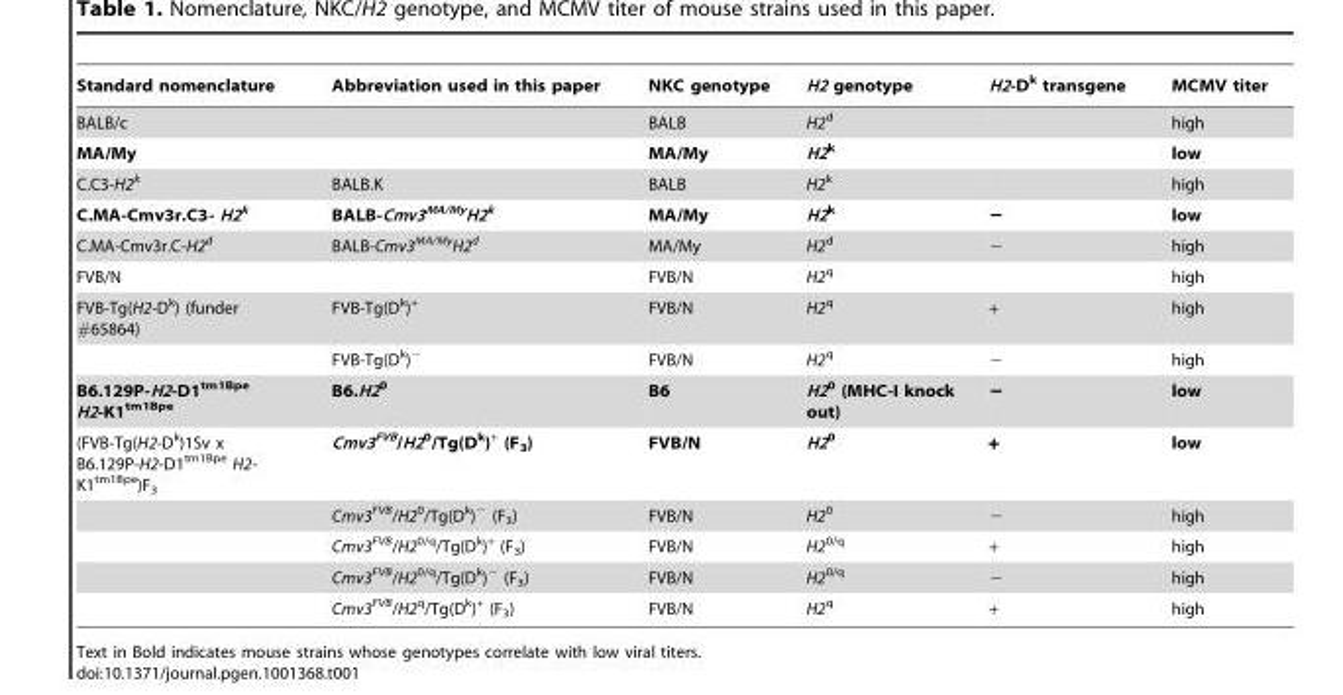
<table><thead><tr><td>Standard nomenclature</td><td>Abbreviation used in this paper</td><td>NKC genotype</td><td>H2 genotype</td><td>H2-D<sup>k</sup> transgene</td><td>MCMV titer</td></tr></thead><tbody><tr><td>BALB/c</td><td></td><td>BALB</td><td>H2<sup>d</sup></td><td></td><td>high</td></tr><tr><td>MA/My</td><td></td><td>MA/My</td><td>H2<sup>k</sup></td><td></td><td>low</td></tr><tr><td>C.C3-H2<sup>k</sup></td><td>BALB.K</td><td>BALB</td><td>H2<sup>k</sup></td><td></td><td>high</td></tr><tr><td>C.MA-Cmv3r.C3- H2<sup>k</sup></td><td>BALB-Cmv3<sup>MA/My</sup>H2<sup>k</sup></td><td>MA/My</td><td>H2<sup>k</sup></td><td>−</td><td>low</td></tr><tr><td>C.MA-Cmv3r.C-H2<sup>d</sup></td><td>BALB-Cmv3<sup>MA/My</sup>H2<sup>d</sup></td><td>MA/My</td><td>H2<sup>d</sup></td><td>−</td><td>high</td></tr><tr><td>FVB/N</td><td></td><td>FVB/N</td><td>H2<sup>q</sup></td><td></td><td>high</td></tr><tr><td rowspan="2">FVB-Tg(H2-D<sup>k</sup>) (funder #65864)</td><td>FVB-Tg(D<sup>k</sup>)<sup>+</sup></td><td>FVB/N</td><td>H2<sup>q</sup></td><td>+</td><td>high</td></tr><tr><td>FVB-Tg(D<sup>k</sup>)<sup>−</sup></td><td>FVB/N</td><td>H2<sup>q</sup></td><td>−</td><td>high</td></tr><tr><td>B6.129P-H2-D1<sup>tm1Bpe</sup> H2-K1<sup>tm1Bpe</sup></td><td>B6.H2<sup>0</sup></td><td>B6</td><td>H2<sup>0</sup> (MHC-I knock out)</td><td>−</td><td>low</td></tr><tr><td rowspan="5">(FVB-Tg(H2-D<sup>k</sup>)1Sv x B6.129P-H2-D1<sup>tm1Bpe</sup> H2- K1<sup>tm1Bpe</sup>)F<sub>3</sub></td><td>Cmv3<sup>FVB</sup>/H2<sup>0</sup>/Tg(D<sup>k</sup>)<sup>+</sup> (F<sub>3</sub>)</td><td>FVB/N</td><td>H2<sup>0</sup></td><td>+</td><td>low</td></tr><tr><td>Cmv3<sup>FVB</sup>/H2<sup>0</sup>/Tg(D<sup>k</sup>)<sup>−</sup> (F<sub>3</sub>)</td><td>FVB/N</td><td>H2<sup>0</sup></td><td>−</td><td>high</td></tr><tr><td>Cmv3<sup>FVB</sup>/H2<sup>0/q</sup>/Tg(D<sup>k</sup>)<sup>+</sup> (F<sub>3</sub>)</td><td>FVB/N</td><td>H2<sup>0/q</sup></td><td>+</td><td>high</td></tr><tr><td>Cmv3<sup>FVB</sup>/H2<sup>0/q</sup>/Tg(D<sup>k</sup>)<sup>−</sup> (F<sub>3</sub>)</td><td>FVB/N</td><td>H2<sup>0/q</sup></td><td>−</td><td>high</td></tr><tr><td>Cmv3<sup>FVB</sup>/H2<sup>q</sup>/Tg(D<sup>k</sup>)<sup>+</sup> (F<sub>3</sub>)</td><td>FVB/N</td><td>H2<sup>q</sup></td><td>+</td><td>high</td></tr></tbody></table>